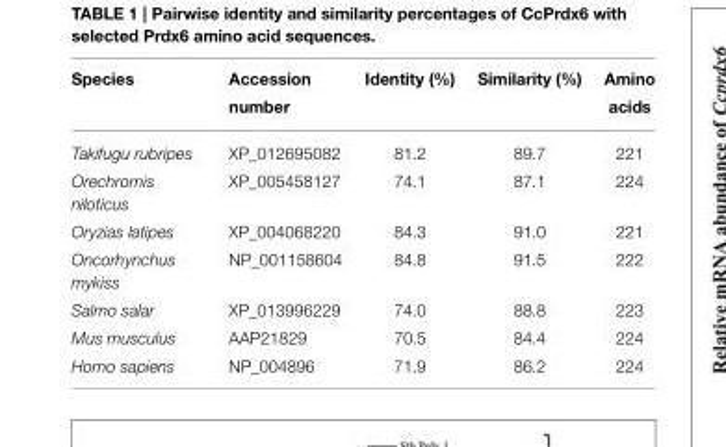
<table><thead><tr><td>Species</td><td>Accession number</td><td>Identity (%)</td><td>Similarity (%)</td><td>Amino acids</td></tr></thead><tbody><tr><td>Takifugu rubripes</td><td>XP_012695082</td><td>81.2</td><td>89.7</td><td>221</td></tr><tr><td>Orechromis niloticus</td><td>XP_005458127</td><td>74.1</td><td>87.1</td><td>224</td></tr><tr><td>Oryzias latipes</td><td>XP_004068220</td><td>84.3</td><td>91.0</td><td>221</td></tr><tr><td>Oncorhynchus mykiss</td><td>NP_001158604</td><td>84.8</td><td>91.5</td><td>222</td></tr><tr><td>Salmo salar</td><td>XP_013996229</td><td>74.0</td><td>88.8</td><td>223</td></tr><tr><td>Mus musculus</td><td>AAP21829</td><td>70.5</td><td>84.4</td><td>224</td></tr><tr><td>Homo sapiens</td><td>NP_004896</td><td>71.9</td><td>86.2</td><td>224</td></tr></tbody></table>